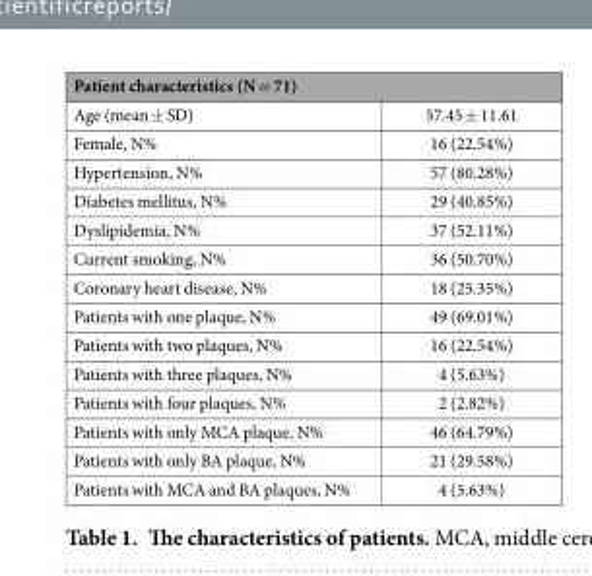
<table><thead><tr><td colspan="2">Patient characteristics (N = 71)</td></tr><tr><td>Age (mean ± SD)</td><td>57.45 ± 11.61</td></tr></thead><tbody><tr><td>Female, N%</td><td>16 (22.54%)</td></tr><tr><td>Hypertension, N%</td><td>57 (80.28%)</td></tr><tr><td>Diabetes mellitus, N%</td><td>29 (40.85%)</td></tr><tr><td>Dyslipidemia, N%</td><td>37 (52.11%)</td></tr><tr><td>Current smoking, N%</td><td>36 (50.70%)</td></tr><tr><td>Coronary heart disease, N%</td><td>18 (25.35%)</td></tr><tr><td>Patients with one plaque, N%</td><td>49 (69.01%)</td></tr><tr><td>Patients with two plaques, N%</td><td>16 (22.54%)</td></tr><tr><td>Patients with three plaques, N%</td><td>4 (5.63%)</td></tr><tr><td>Patients with four plaques, N%</td><td>2 (2.82%)</td></tr><tr><td>Patients with only MCA plaque, N%</td><td>46 (64.79%)</td></tr><tr><td>Patients with only BA plaque, N%</td><td>21 (29.58%)</td></tr><tr><td>Patients with MCA and BA plaques, N%</td><td>4 (5.63%)</td></tr></tbody></table>